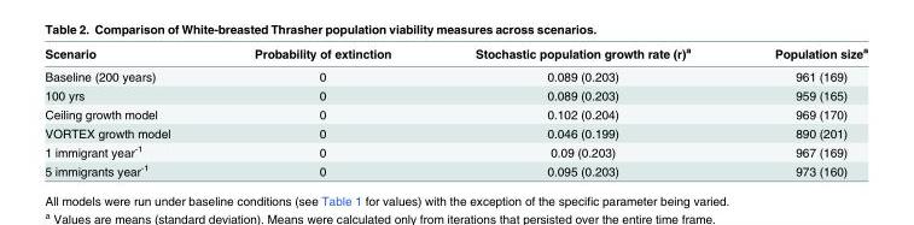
<table><thead><tr><td>Scenario</td><td>Probability of extinction</td><td>Stochastic population growth rate (r)<sup>a</sup></td><td>Population size<sup>a</sup></td></tr></thead><tbody><tr><td>Baseline (200 years)</td><td>0</td><td>0.089 (0.203)</td><td>961 (169)</td></tr><tr><td>100 yrs</td><td>0</td><td>0.089 (0.203)</td><td>959 (165)</td></tr><tr><td>Ceiling growth model</td><td>0</td><td>0.102 (0.204)</td><td>969 (170)</td></tr><tr><td>VORTEX growth model</td><td>0</td><td>0.046 (0.199)</td><td>890 (201)</td></tr><tr><td>1 immigrant year<sup>-1</sup></td><td>0</td><td>0.09 (0.203)</td><td>967 (169)</td></tr><tr><td>5 immigrants year<sup>-1</sup></td><td>0</td><td>0.095 (0.203)</td><td>973 (160)</td></tr></tbody></table>